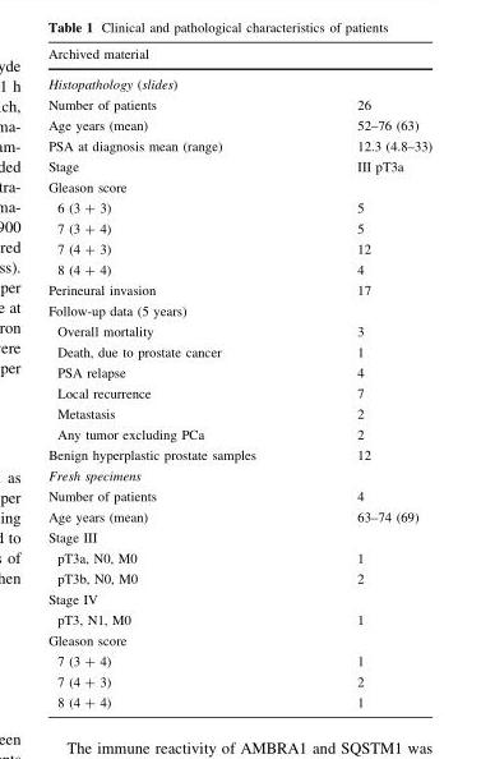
<table><thead><tr><td rowspan="2" colspan="2">Archived material Histopathology (slides)</td></tr><tr></tr><tr><td>Number of patients</td><td>26</td></tr></thead><tbody><tr><td>Age years (mean)</td><td>52–76 (63)</td></tr><tr><td>PSA at diagnosis mean (range)</td><td>12.3 (4.8–33)</td></tr><tr><td>Stage</td><td>III pT3a</td></tr><tr><td colspan="2">Gleason score</td></tr><tr><td>6 (3 + 3)</td><td>5</td></tr><tr><td>7 (3 + 4)</td><td>5</td></tr><tr><td>7 (4 + 3)</td><td>12</td></tr><tr><td>8 (4 + 4)</td><td>4</td></tr><tr><td>Perineural invasion</td><td>17</td></tr><tr><td colspan="2">Follow-up data (5 years)</td></tr><tr><td>Overall mortality</td><td>3</td></tr><tr><td>Death, due to prostate cancer</td><td>1</td></tr><tr><td>PSA relapse</td><td>4</td></tr><tr><td>Local recurrence</td><td>7</td></tr><tr><td>Metastasis</td><td>2</td></tr><tr><td>Any tumor excluding PCa</td><td>2</td></tr><tr><td>Benign hyperplastic prostate samples</td><td>12</td></tr><tr><td colspan="2">Fresh specimens</td></tr><tr><td>Number of patients</td><td>4</td></tr><tr><td>Age years (mean)</td><td>63–74 (69)</td></tr><tr><td colspan="2">Stage III</td></tr><tr><td>pT3a, N0, M0</td><td>1</td></tr><tr><td>pT3b, N0, M0</td><td>2</td></tr><tr><td colspan="2">Stage IV</td></tr><tr><td>pT3, N1, M0</td><td>1</td></tr><tr><td colspan="2">Gleason score</td></tr><tr><td>7 (3 + 4)</td><td>1</td></tr><tr><td>7 (4 + 3)</td><td>2</td></tr><tr><td>8 (4 + 4)</td><td>1</td></tr></tbody></table>